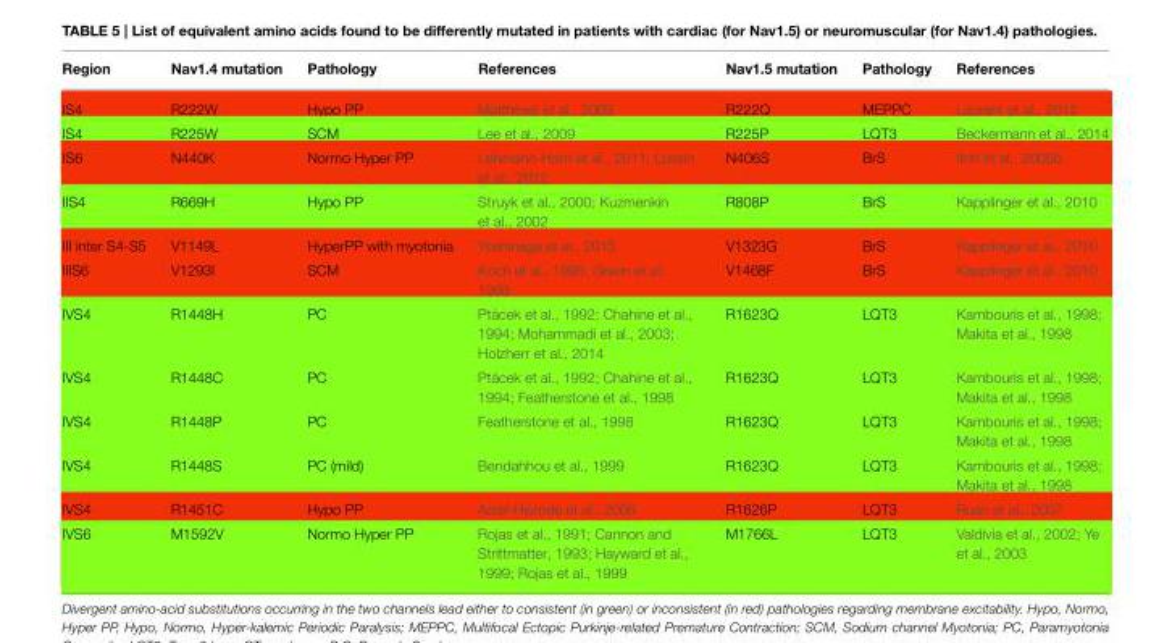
<table><thead><tr><td>Region</td><td>Nav1.4 mutation</td><td>Pathology</td><td>References</td><td>Nav1.5 mutation</td><td>Pathology</td><td>References</td></tr></thead><tbody><tr><td>IS4</td><td>R222W</td><td>Hypo PP</td><td>Matthews et al., 2009</td><td>R222Q</td><td>MEPPC</td><td>Laurent et al., 2012</td></tr><tr><td>IS4</td><td>R225W</td><td>SCM</td><td>Lee et al., 2009</td><td>R225P</td><td>LQT3</td><td>Beckermann et al., 2014</td></tr><tr><td>IS6</td><td>N440K</td><td>Normo Hyper PP</td><td>Lehmann-Horn et al., 2011; Lossin et al., 2012</td><td>N406S</td><td>BrS</td><td>Itoh et al., 2005b</td></tr><tr><td>IIS4</td><td>R669H</td><td>Hypo PP</td><td>Struyk et al., 2000; Kuzmenkin et al., 2002</td><td>R808P</td><td>BrS</td><td>Kapplinger et al., 2010</td></tr><tr><td>III inter S4-S5</td><td>V1149L</td><td>HyperPP with myotonia</td><td>Yoshinaga et al., 2015</td><td>V1323G</td><td>BrS</td><td>Kapplinger et al., 2010</td></tr><tr><td>IIIS6</td><td>V1293I</td><td>SCM</td><td>Koch et al., 1995; Green et al., 1998</td><td>V1468F</td><td>BrS</td><td>Kapplinger et al., 2010</td></tr><tr><td>IVS4</td><td>R1448H</td><td>PC</td><td>Ptácek et al., 1992; Chahine et al., 1994; Mohammadi et al., 2003; Holzherr et al., 2014</td><td>R1623Q</td><td>LQT3</td><td>Kambouris et al., 1998; Makita et al., 1998</td></tr><tr><td>IVS4</td><td>R1448C</td><td>PC</td><td>Ptácek et al., 1992; Chahine et al., 1994; Featherstone et al., 1998</td><td>R1623Q</td><td>LQT3</td><td>Kambouris et al., 1998; Makita et al., 1998</td></tr><tr><td>IVS4</td><td>R1448P</td><td>PC</td><td>Featherstone et al., 1998</td><td>R1623Q</td><td>LQT3</td><td>Kambouris et al., 1998; Makita et al., 1998</td></tr><tr><td>IVS4</td><td>R1448S</td><td>PC (mild)</td><td>Bendahhou et al., 1999</td><td>R1623Q</td><td>LQT3</td><td>Kambouris et al., 1998; Makita et al., 1998</td></tr><tr><td>IVS4</td><td>R1451C</td><td>Hypo PP</td><td>Arzel-Hézode et al., 2009</td><td>R1626P</td><td>LQT3</td><td>Ruan et al., 2007</td></tr><tr><td>IVS6</td><td>M1592V</td><td>Normo Hyper PP</td><td>Rojas et al., 1991; Cannon and Strittmatter, 1993; Hayward et al., 1999; Rojas et al., 1999</td><td>M1766L</td><td>LQT3</td><td>Valdivia et al., 2002; Ye et al., 2003</td></tr></tbody></table>